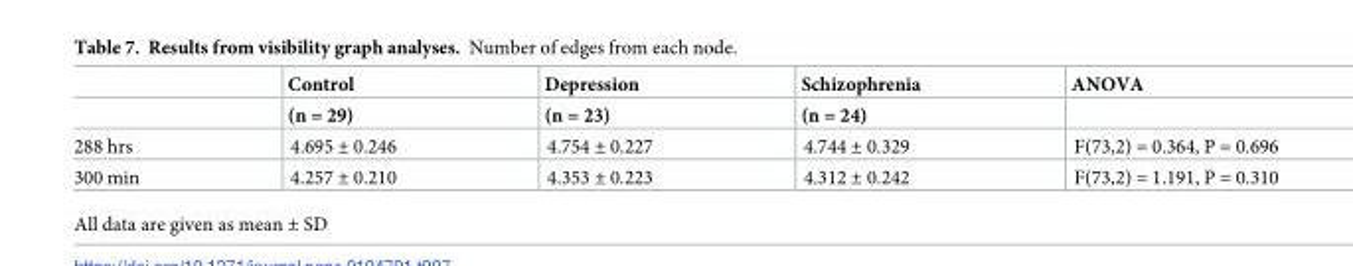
<table><thead><tr><td rowspan="2"></td><td rowspan="2">Control (n = 29)</td><td rowspan="2">Depression (n = 23)</td><td rowspan="2">Schizophrenia (n = 24)</td><td rowspan="2">ANOVA</td></tr><tr></tr></thead><tbody><tr><td>288 hrs</td><td>4.695 ± 0.246</td><td>4.754 ± 0.227</td><td>4.744 ± 0.329</td><td>F(73,2) = 0.364, P = 0.696</td></tr><tr><td>300 min</td><td>4.257 ± 0.210</td><td>4.353 ± 0.223</td><td>4.312 ± 0.242</td><td>F(73,2) = 1.191, P = 0.310</td></tr></tbody></table>